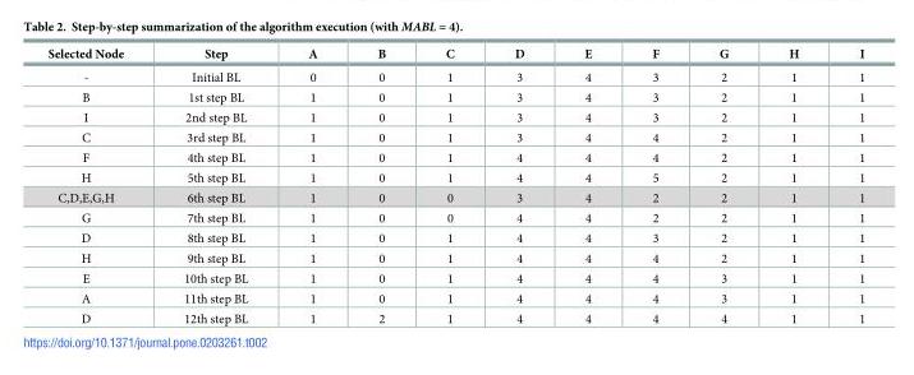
<table><thead><tr><td>Selected Node</td><td>Step</td><td>A</td><td>B</td><td>C</td><td>D</td><td>E</td><td>F</td><td>G</td><td>H</td><td>I</td></tr></thead><tbody><tr><td>-</td><td>Initial BL</td><td>0</td><td>0</td><td>1</td><td>3</td><td>4</td><td>3</td><td>2</td><td>1</td><td>1</td></tr><tr><td>B</td><td>1st step BL</td><td>1</td><td>0</td><td>1</td><td>3</td><td>4</td><td>3</td><td>2</td><td>1</td><td>1</td></tr><tr><td>I</td><td>2nd step BL</td><td>1</td><td>0</td><td>1</td><td>3</td><td>4</td><td>3</td><td>2</td><td>1</td><td>1</td></tr><tr><td>C</td><td>3rd step BL</td><td>1</td><td>0</td><td>1</td><td>3</td><td>4</td><td>4</td><td>2</td><td>1</td><td>1</td></tr><tr><td>F</td><td>4th step BL</td><td>1</td><td>0</td><td>1</td><td>4</td><td>4</td><td>4</td><td>2</td><td>1</td><td>1</td></tr><tr><td>H</td><td>5th step BL</td><td>1</td><td>0</td><td>1</td><td>4</td><td>4</td><td>5</td><td>2</td><td>1</td><td>1</td></tr><tr><td>C,D,E,G,H</td><td>6th step BL</td><td>1</td><td>0</td><td>0</td><td>3</td><td>4</td><td>2</td><td>2</td><td>1</td><td>1</td></tr><tr><td>G</td><td>7th step BL</td><td>1</td><td>0</td><td>0</td><td>4</td><td>4</td><td>2</td><td>2</td><td>1</td><td>1</td></tr><tr><td>D</td><td>8th step BL</td><td>1</td><td>0</td><td>1</td><td>4</td><td>4</td><td>3</td><td>2</td><td>1</td><td>1</td></tr><tr><td>H</td><td>9th step BL</td><td>1</td><td>0</td><td>1</td><td>4</td><td>4</td><td>4</td><td>2</td><td>1</td><td>1</td></tr><tr><td>E</td><td>10th step BL</td><td>1</td><td>0</td><td>1</td><td>4</td><td>4</td><td>4</td><td>3</td><td>1</td><td>1</td></tr><tr><td>A</td><td>11th step BL</td><td>1</td><td>0</td><td>1</td><td>4</td><td>4</td><td>4</td><td>3</td><td>1</td><td>1</td></tr><tr><td>D</td><td>12th step BL</td><td>1</td><td>2</td><td>1</td><td>4</td><td>4</td><td>4</td><td>4</td><td>1</td><td>1</td></tr></tbody></table>